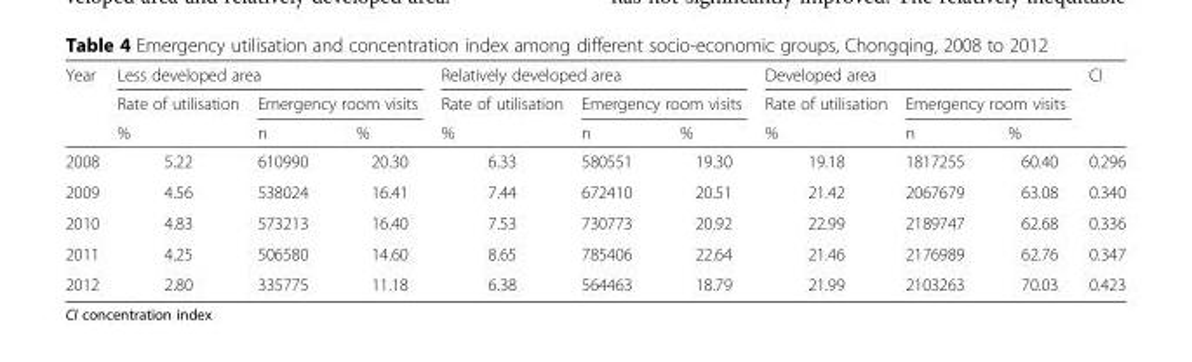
<table><thead><tr><td rowspan="3">Year</td><td colspan="3">Less developed area</td><td colspan="3">Relatively developed area</td><td colspan="3">Developed area</td><td rowspan="3">CI</td></tr><tr><td rowspan="2">Rate of utilisation %</td><td colspan="2">Emergency room visits</td><td rowspan="2">Rate of utilisation %</td><td colspan="2">Emergency room visits</td><td rowspan="2">Rate of utilisation %</td><td colspan="2">Emergency room visits</td></tr><tr><td>n</td><td>%</td><td>n</td><td>%</td><td>n</td><td>%</td></tr></thead><tbody><tr><td>2008</td><td>5.22</td><td>610990</td><td>20.30</td><td>6.33</td><td>580551</td><td>19.30</td><td>19.18</td><td>1817255</td><td>60.40</td><td>0.296</td></tr><tr><td>2009</td><td>4.56</td><td>538024</td><td>16.41</td><td>7.44</td><td>672410</td><td>20.51</td><td>21.42</td><td>2067679</td><td>63.08</td><td>0.340</td></tr><tr><td>2010</td><td>4.83</td><td>573213</td><td>16.40</td><td>7.53</td><td>730773</td><td>20.92</td><td>22.99</td><td>2189747</td><td>62.68</td><td>0.336</td></tr><tr><td>2011</td><td>4.25</td><td>506580</td><td>14.60</td><td>8.65</td><td>785406</td><td>22.64</td><td>21.46</td><td>2176989</td><td>62.76</td><td>0.347</td></tr><tr><td>2012</td><td>2.80</td><td>335775</td><td>11.18</td><td>6.38</td><td>564463</td><td>18.79</td><td>21.99</td><td>2103263</td><td>70.03</td><td>0.423</td></tr></tbody></table>